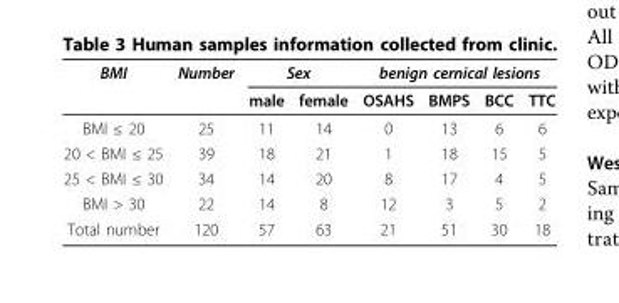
<table><thead><tr><td rowspan="2">BMI</td><td rowspan="2">Number</td><td colspan="2">Sex</td><td colspan="4">benign cernical lesions</td></tr><tr><td>male</td><td>female</td><td>OSAHS</td><td>BMPS</td><td>BCC</td><td>TTC</td></tr></thead><tbody><tr><td>BMI ≤ 20</td><td>25</td><td>11</td><td>14</td><td>0</td><td>13</td><td>6</td><td>6</td></tr><tr><td>20 &lt; BMI ≤ 25</td><td>39</td><td>18</td><td>21</td><td>1</td><td>18</td><td>15</td><td>5</td></tr><tr><td>25 &lt; BMI ≤ 30</td><td>34</td><td>14</td><td>20</td><td>8</td><td>17</td><td>4</td><td>5</td></tr><tr><td>BMI &gt; 30</td><td>22</td><td>14</td><td>8</td><td>12</td><td>3</td><td>5</td><td>2</td></tr><tr><td>Total number</td><td>120</td><td>57</td><td>63</td><td>21</td><td>51</td><td>30</td><td>18</td></tr></tbody></table>